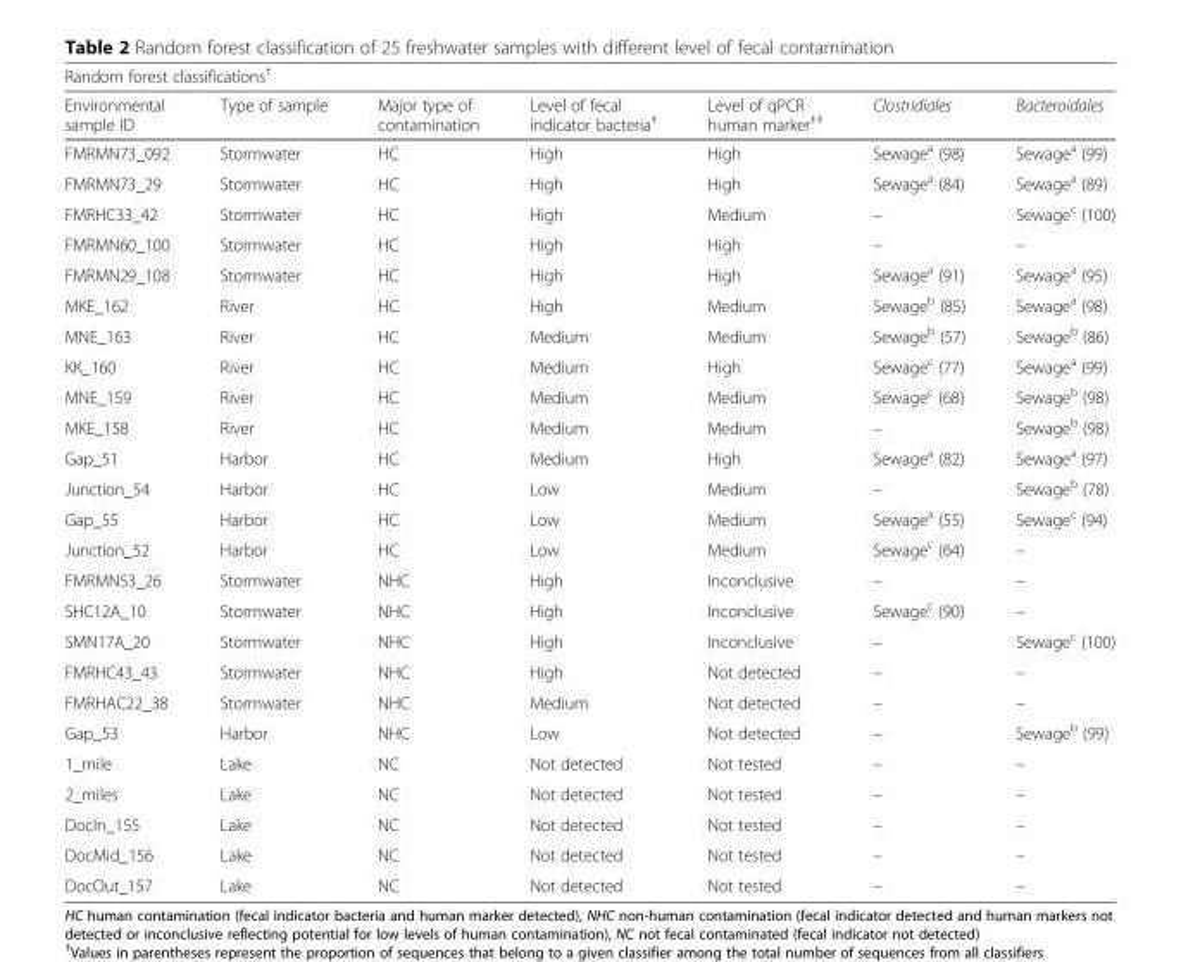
<table><thead><tr><td colspan="7">Random forest classifications<sup>†</sup></td></tr><tr><td>Environmental sample ID</td><td>Type of sample</td><td>Major type of contamination</td><td>Level of fecal indicator bacteria<sup>‡</sup></td><td>Level of qPCR human marker<sup>‡‡</sup></td><td>Clostridiales</td><td>Bacteroidales</td></tr></thead><tbody><tr><td>FMRMN73_092</td><td>Stormwater</td><td>HC</td><td>High</td><td>High</td><td>Sewage<sup>a</sup> (98)</td><td>Sewage<sup>a</sup> (99)</td></tr><tr><td>FMRMN73_29</td><td>Stormwater</td><td>HC</td><td>High</td><td>High</td><td>Sewage<sup>a</sup> (84)</td><td>Sewage<sup>a</sup> (89)</td></tr><tr><td>FMRHC33_42</td><td>Stormwater</td><td>HC</td><td>High</td><td>Medium</td><td>–</td><td>Sewage<sup>c</sup> (100)</td></tr><tr><td>FMRMN60_100</td><td>Stormwater</td><td>HC</td><td>High</td><td>High</td><td>–</td><td>–</td></tr><tr><td>FMRMN29_108</td><td>Stormwater</td><td>HC</td><td>High</td><td>High</td><td>Sewage<sup>a</sup> (91)</td><td>Sewage<sup>a</sup> (95)</td></tr><tr><td>MKE_162</td><td>River</td><td>HC</td><td>High</td><td>Medium</td><td>Sewage<sup>b</sup> (85)</td><td>Sewage<sup>a</sup> (98)</td></tr><tr><td>MNE_163</td><td>River</td><td>HC</td><td>Medium</td><td>Medium</td><td>Sewage<sup>b</sup> (57)</td><td>Sewage<sup>b</sup> (86)</td></tr><tr><td>KK_160</td><td>River</td><td>HC</td><td>Medium</td><td>High</td><td>Sewage<sup>c</sup> (77)</td><td>Sewage<sup>a</sup> (99)</td></tr><tr><td>MNE_159</td><td>River</td><td>HC</td><td>Medium</td><td>Medium</td><td>Sewage<sup>c</sup> (68)</td><td>Sewage<sup>b</sup> (98)</td></tr><tr><td>MKE_158</td><td>River</td><td>HC</td><td>Medium</td><td>Medium</td><td>–</td><td>Sewage<sup>b</sup> (98)</td></tr><tr><td>Gap_51</td><td>Harbor</td><td>HC</td><td>Medium</td><td>High</td><td>Sewage<sup>a</sup> (82)</td><td>Sewage<sup>a</sup> (97)</td></tr><tr><td>Junction_54</td><td>Harbor</td><td>HC</td><td>Low</td><td>Medium</td><td>–</td><td>Sewage<sup>b</sup> (78)</td></tr><tr><td>Gap_55</td><td>Harbor</td><td>HC</td><td>Low</td><td>Medium</td><td>Sewage<sup>a</sup> (55)</td><td>Sewage<sup>c</sup> (94)</td></tr><tr><td>Junction_52</td><td>Harbor</td><td>HC</td><td>Low</td><td>Medium</td><td>Sewage<sup>c</sup> (64)</td><td>–</td></tr><tr><td>FMRMN53_26</td><td>Stormwater</td><td>NHC</td><td>High</td><td>Inconclusive</td><td>–</td><td>–</td></tr><tr><td>SHC12A_10</td><td>Stormwater</td><td>NHC</td><td>High</td><td>Inconclusive</td><td>Sewage<sup>c</sup> (90)</td><td>–</td></tr><tr><td>SMN17A_20</td><td>Stormwater</td><td>NHC</td><td>High</td><td>Inconclusive</td><td>–</td><td>Sewage<sup>c</sup> (100)</td></tr><tr><td>FMRHC43_43</td><td>Stormwater</td><td>NHC</td><td>High</td><td>Not detected</td><td>–</td><td>–</td></tr><tr><td>FMRHAC22_38</td><td>Stormwater</td><td>NHC</td><td>Medium</td><td>Not detected</td><td>–</td><td>–</td></tr><tr><td>Gap_53</td><td>Harbor</td><td>NHC</td><td>Low</td><td>Not detected</td><td>–</td><td>Sewage<sup>b</sup> (99)</td></tr><tr><td>1_mile</td><td>Lake</td><td>NC</td><td>Not detected</td><td>Not tested</td><td>–</td><td>–</td></tr><tr><td>2_miles</td><td>Lake</td><td>NC</td><td>Not detected</td><td>Not tested</td><td>–</td><td>–</td></tr><tr><td>DocIn_155</td><td>Lake</td><td>NC</td><td>Not detected</td><td>Not tested</td><td>–</td><td>–</td></tr><tr><td>DocMid_156</td><td>Lake</td><td>NC</td><td>Not detected</td><td>Not tested</td><td>–</td><td>–</td></tr><tr><td>DocOut_157</td><td>Lake</td><td>NC</td><td>Not detected</td><td>Not tested</td><td>–</td><td>–</td></tr></tbody></table>